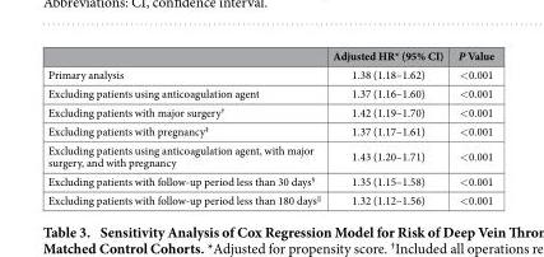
<table><thead><tr><td></td><td>Adjusted HR* (95% CI)</td><td>P Value</td></tr></thead><tbody><tr><td>Primary analysis</td><td>1.38 (1.18–1.62)</td><td>&lt; 0.001</td></tr><tr><td>Excluding patients using anticoagulation agent</td><td>1.37 (1.16–1.60)</td><td>&lt; 0.001</td></tr><tr><td>Excluding patients with major surgery<sup>†</sup></td><td>1.42 (1.19–1.70)</td><td>&lt; 0.001</td></tr><tr><td>Excluding patients with pregnancy<sup>‡</sup></td><td>1.37 (1.17–1.61)</td><td>&lt; 0.001</td></tr><tr><td>Excluding patients using anticoagulation agent, with major surgery, and with pregnancy</td><td>1.43 (1.20–1.71)</td><td>&lt; 0.001</td></tr><tr><td>Excluding patients with follow-up period less than 30 days<sup>§</sup></td><td>1.35 (1.15–1.58)</td><td>&lt; 0.001</td></tr><tr><td>Excluding patients with follow-up period less than 180 days<sup>‖</sup></td><td>1.32 (1.12–1.56)</td><td>&lt; 0.001</td></tr></tbody></table>